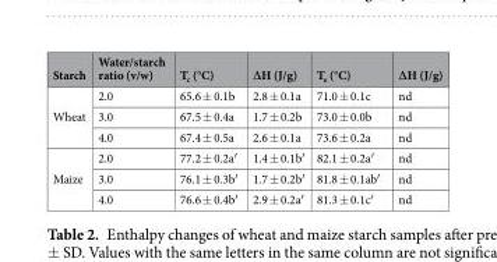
<table><thead><tr><td>Starch</td><td>Water/starch ratio (v/w)</td><td>T<sub>c</sub> (°C)</td><td>∆H (J/g)</td><td>T<sub>e</sub> (°C)</td><td>∆H (J/g)</td></tr></thead><tbody><tr><td rowspan="3">Wheat</td><td>2.0</td><td>65.6 ± 0.1b</td><td>2.8 ± 0.1a</td><td>71.0 ± 0.1c</td><td>nd</td></tr><tr><td>3.0</td><td>67.5 ± 0.4a</td><td>1.7 ± 0.2b</td><td>73.0 ± 0.0b</td><td>nd</td></tr><tr><td>4.0</td><td>67.4 ± 0.5a</td><td>2.6 ± 0.1a</td><td>73.6 ± 0.2a</td><td>nd</td></tr><tr><td rowspan="3">Maize</td><td>2.0</td><td>77.2 ± 0.2a′</td><td>1.4 ± 0.1b′</td><td>82.1 ± 0.2a′</td><td>nd</td></tr><tr><td>3.0</td><td>76.1 ± 0.3b′</td><td>1.7 ± 0.2b′</td><td>81.8 ± 0.1ab′</td><td>nd</td></tr><tr><td>4.0</td><td>76.6 ± 0.4b′</td><td>2.9 ± 0.2a′</td><td>81.3 ± 0.1c′</td><td>nd</td></tr></tbody></table>